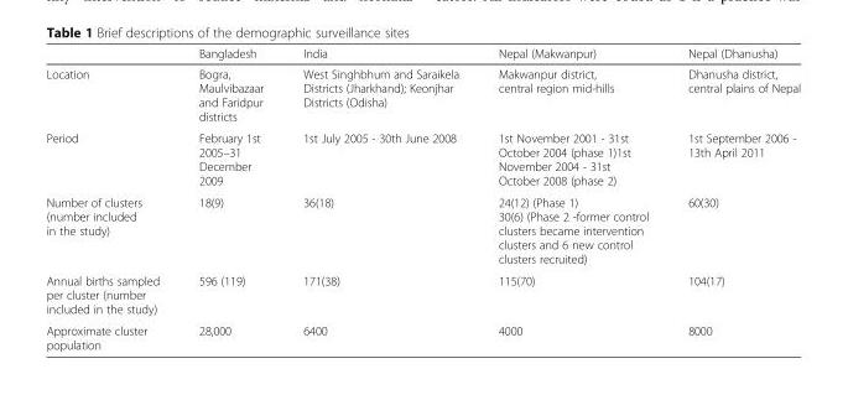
<table><thead><tr><td></td><td>Bangladesh</td><td>India</td><td>Nepal (Makwanpur)</td><td>Nepal (Dhanusha)</td></tr></thead><tbody><tr><td>Location</td><td>Bogra, Maulvibazaar and Faridpur districts</td><td>West Singhbhum and Saraikela Districts (Jharkhand); Keonjhar Districts (Odisha)</td><td>Makwanpur district, central region mid-hills</td><td>Dhanusha district, central plains of Nepal</td></tr><tr><td>Period</td><td>February 1st 2005–31 December 2009</td><td>1st July 2005 - 30th June 2008</td><td>1st November 2001 - 31st October 2004 (phase 1)1st November 2004 - 31st October 2008 (phase 2)</td><td>1st September 2006 - 13th April 2011</td></tr><tr><td>Number of clusters (number included in the study)</td><td>18(9)</td><td>36(18)</td><td>24(12) (Phase 1) 30(6) (Phase 2 -former control clusters became intervention clusters and 6 new control clusters recruited)</td><td>60(30)</td></tr><tr><td>Annual births sampled per cluster (number included in the study)</td><td>596 (119)</td><td>171(38)</td><td>115(70)</td><td>104(17)</td></tr><tr><td>Approximate cluster population</td><td>28,000</td><td>6400</td><td>4000</td><td>8000</td></tr></tbody></table>